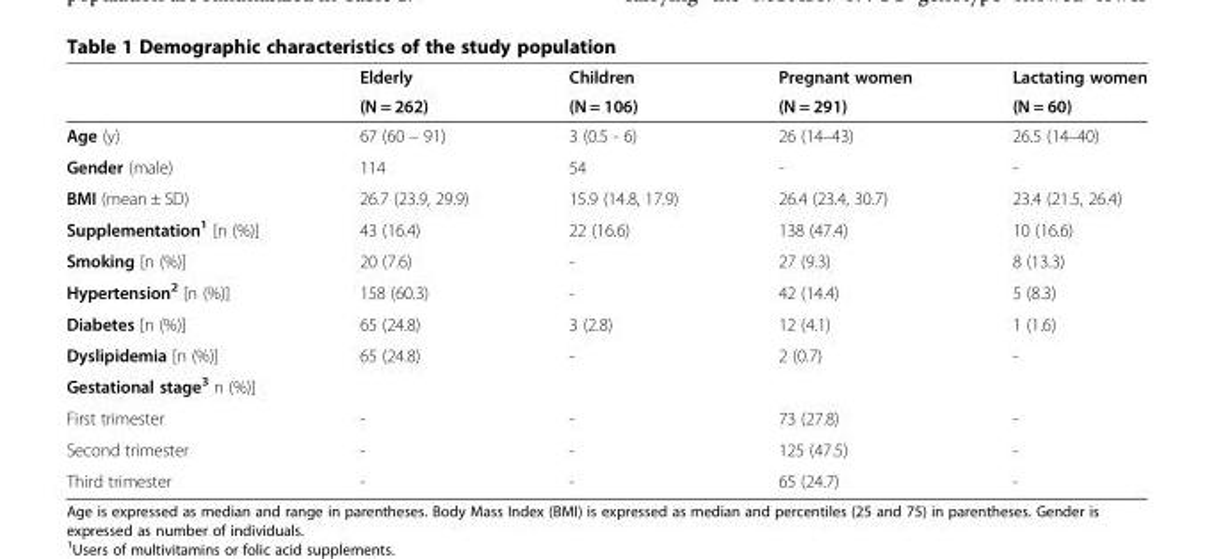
<table><thead><tr><td rowspan="2"></td><td rowspan="2">Elderly (N = 262)</td><td rowspan="2">Children (N = 106)</td><td rowspan="2">Pregnant women (N = 291)</td><td rowspan="2">Lactating women (N = 60)</td></tr><tr></tr></thead><tbody><tr><td>Age (y)</td><td>67 (60 – 91)</td><td>3 (0.5 - 6)</td><td>26 (14–43)</td><td>26.5 (14–40)</td></tr><tr><td>Gender (male)</td><td>114</td><td>54</td><td>-</td><td>-</td></tr><tr><td>BMI (mean ± SD)</td><td>26.7 (23.9, 29.9)</td><td>15.9 (14.8, 17.9)</td><td>26.4 (23.4, 30.7)</td><td>23.4 (21.5, 26.4)</td></tr><tr><td>Supplementation<sup>1</sup> [n (%)]</td><td>43 (16.4)</td><td>22 (16.6)</td><td>138 (47.4)</td><td>10 (16.6)</td></tr><tr><td>Smoking [n (%)]</td><td>20 (7.6)</td><td>-</td><td>27 (9.3)</td><td>8 (13.3)</td></tr><tr><td>Hypertension<sup>2</sup> [n (%)]</td><td>158 (60.3)</td><td>-</td><td>42 (14.4)</td><td>5 (8.3)</td></tr><tr><td>Diabetes [n (%)]</td><td>65 (24.8)</td><td>3 (2.8)</td><td>12 (4.1)</td><td>1 (1.6)</td></tr><tr><td>Dyslipidemia [n (%)]</td><td>65 (24.8)</td><td>-</td><td>2 (0.7)</td><td>-</td></tr><tr><td colspan="5">Gestational stage<sup>3</sup> n (%)]</td></tr><tr><td>First trimester</td><td>-</td><td>-</td><td>73 (27.8)</td><td>-</td></tr><tr><td>Second trimester</td><td>-</td><td>-</td><td>125 (47.5)</td><td>-</td></tr><tr><td>Third trimester</td><td>-</td><td>-</td><td>65 (24.7)</td><td>-</td></tr></tbody></table>